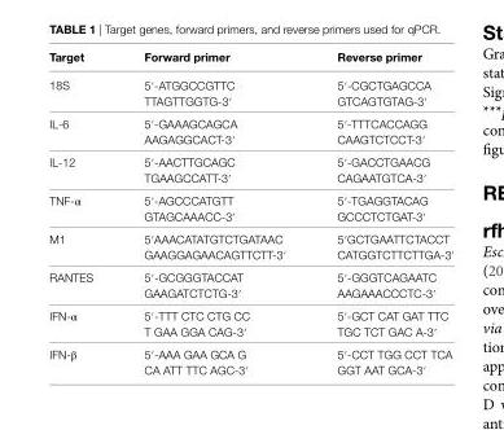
<table><thead><tr><td>Target</td><td>Forward primer</td><td>reverse primer</td></tr></thead><tbody><tr><td>18S</td><td>5′-ATGGCCGTTC TTAGTTGGTG-3′</td><td>5′-CGCTGAGCCA GTCAGTGTAG-3′</td></tr><tr><td>IL-6</td><td>5′-GAAAGCAGCA AAGAGGCACT-3′</td><td>5′-TTTCACCAGG CAAGTCTCCT-3′</td></tr><tr><td>IL-12</td><td>5′-AACTTGCAGC TGAAGCCATT-3′</td><td>5′-GACCTGAACG CAGAATGTCA-3′</td></tr><tr><td>TNF-α</td><td>5′-AGCCCATGTT GTAGCAAACC-3′</td><td>5′-TGAGGTACAG GCCCTCTGAT-3′</td></tr><tr><td>M1</td><td>5′AAACATATGTCTGATAAC GAAGGAGAACAGTTCTT-3′</td><td>5′GCTGAATTCTACCT CATGGTCTTCTTGA-3′</td></tr><tr><td>RANTES</td><td>5′-GCGGGTACCAT GAAGATCTCTG-3′</td><td>5′-GGGTCAGAATC AAGAAACCCTC-3′</td></tr><tr><td>IFN-α</td><td>5′-TTT CTC CTG CC T GAA GGA CAG-3′</td><td>5′-GCT CAT GAT TTC TGC TCT GAC A-3′</td></tr><tr><td>IFN-β</td><td>5′-AAA GAA GCA G CA ATT TTC AGC-3′</td><td>5′-CCT TGG CCT TCA GGT AAT GCA-3′</td></tr></tbody></table>